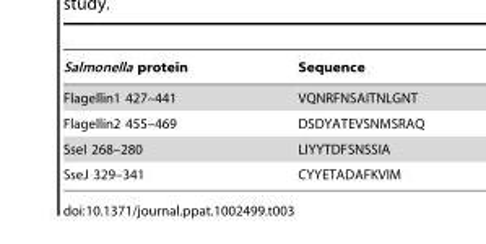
<table><thead><tr><td>Salmonella protein</td><td>Sequence</td></tr></thead><tbody><tr><td>Flagellin1 427–441</td><td>VQNRFNSAITNLGNT</td></tr><tr><td>Flagellin2 455–469</td><td>DSDYATEVSNMSRAQ</td></tr><tr><td>SseI 268–280</td><td>LIYYTDFSNSSIA</td></tr><tr><td>SseJ 329–341</td><td>CYYETADAFKVIM</td></tr></tbody></table>